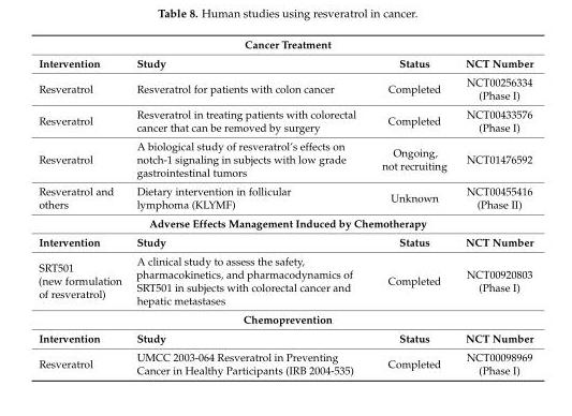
<table><tbody><tr><td colspan="4">Cancer Treatment</td></tr><tr><td>Intervention</td><td>Study</td><td>Status</td><td>NCT Number</td></tr><tr><td>Resveratrol</td><td>Resveratrol for patients with colon cancer</td><td>Completed</td><td>NCT00256334 (Phase I)</td></tr><tr><td>Resveratrol</td><td>Resveratrol in treating patients with colorectal cancer that can be removed by surgery</td><td>Completed</td><td>NCT00433576 (Phase I)</td></tr><tr><td>Resveratrol</td><td>A biological study of resveratrol’s effects on notch-1 signaling in subjects with low grade gastrointestinal tumors</td><td>Ongoing, not recruiting</td><td>NCT01476592</td></tr><tr><td>Resveratrol and others</td><td>Dietary intervention in follicular lymphoma (KLYMF)</td><td>Unknown</td><td>NCT00455416 (Phase II)</td></tr><tr><td colspan="4">Adverse Effects Management Induced by Chemotherapy</td></tr><tr><td>Intervention</td><td>Study</td><td>Status</td><td>NCT Number</td></tr><tr><td>SRT501 (new formulation of resveratrol)</td><td>A clinical study to assess the safety, pharmacokinetics, and pharmacodynamics of SRT501 in subjects with colorectal cancer and hepatic metastases</td><td>Completed</td><td>NCT00920803 (Phase I)</td></tr><tr><td colspan="4">Chemoprevention</td></tr><tr><td>Intervention</td><td>Study</td><td>Status</td><td>NCT Number</td></tr><tr><td>Resveratrol</td><td>UMCC 2003-064 Resveratrol in Preventing Cancer in Healthy Participants (IRB 2004-535)</td><td>Completed</td><td>NCT00098969 (Phase I)</td></tr></tbody></table>